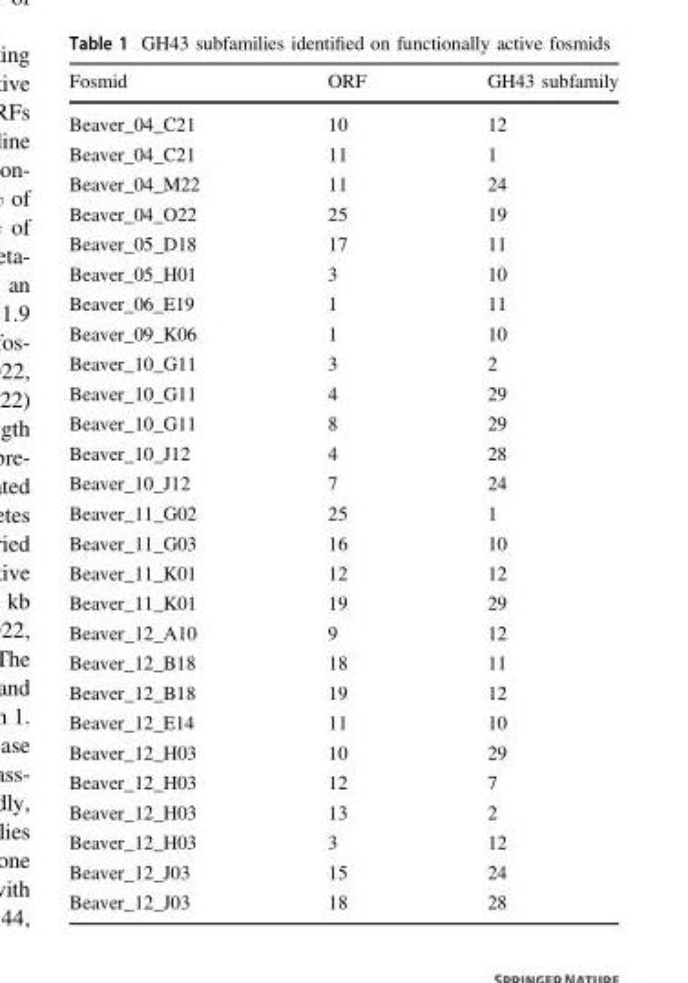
<table><thead><tr><td>Fosmid</td><td>ORF</td><td>GH43 subfamily</td></tr></thead><tbody><tr><td>Beaver_04_C21</td><td>10</td><td>12</td></tr><tr><td>Beaver_04_C21</td><td>11</td><td>1</td></tr><tr><td>Beaver_04_M22</td><td>11</td><td>24</td></tr><tr><td>Beaver_04_O22</td><td>25</td><td>19</td></tr><tr><td>Beaver_05_D18</td><td>17</td><td>11</td></tr><tr><td>Beaver_05_H01</td><td>3</td><td>10</td></tr><tr><td>Beaver_06_E19</td><td>1</td><td>11</td></tr><tr><td>Beaver_09_K06</td><td>1</td><td>10</td></tr><tr><td>Beaver_10_G11</td><td>3</td><td>2</td></tr><tr><td>Beaver_10_G11</td><td>4</td><td>29</td></tr><tr><td>Beaver_10_G11</td><td>8</td><td>29</td></tr><tr><td>Beaver_10_J12</td><td>4</td><td>28</td></tr><tr><td>Beaver_10_J12</td><td>7</td><td>24</td></tr><tr><td>Beaver_11_G02</td><td>25</td><td>1</td></tr><tr><td>Beaver_11_G03</td><td>16</td><td>10</td></tr><tr><td>Beaver_11_K01</td><td>12</td><td>12</td></tr><tr><td>Beaver_11_K01</td><td>19</td><td>29</td></tr><tr><td>Beaver_12_A10</td><td>9</td><td>12</td></tr><tr><td>Beaver_12_B18</td><td>18</td><td>11</td></tr><tr><td>Beaver_12_B18</td><td>19</td><td>12</td></tr><tr><td>Beaver_12_E14</td><td>11</td><td>10</td></tr><tr><td>Beaver_12_H03</td><td>10</td><td>29</td></tr><tr><td>Beaver_12_H03</td><td>12</td><td>7</td></tr><tr><td>Beaver_12_H03</td><td>13</td><td>2</td></tr><tr><td>Beaver_12_H03</td><td>3</td><td>12</td></tr><tr><td>Beaver_12_J03</td><td>15</td><td>24</td></tr><tr><td>Beaver_12_J03</td><td>18</td><td>28</td></tr></tbody></table>